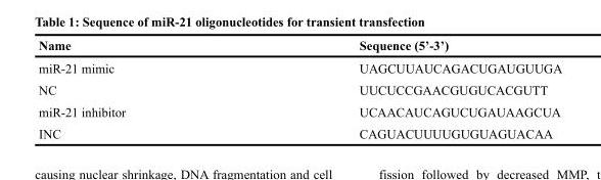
<table><thead><tr><td>Name</td><td>Sequence (5’-3’)</td></tr></thead><tbody><tr><td>miR-21 mimic</td><td>UAGCUUAUCAGACUGAUGUUGA</td></tr><tr><td>NC</td><td>UUCUCCGAACGUGUCACGUTT</td></tr><tr><td>miR-21 inhibitor</td><td>UCAACAUCAGUCUGAUAAGCUA</td></tr><tr><td>INC</td><td>CAGUACUUUUGUGUAGUACAA</td></tr></tbody></table>